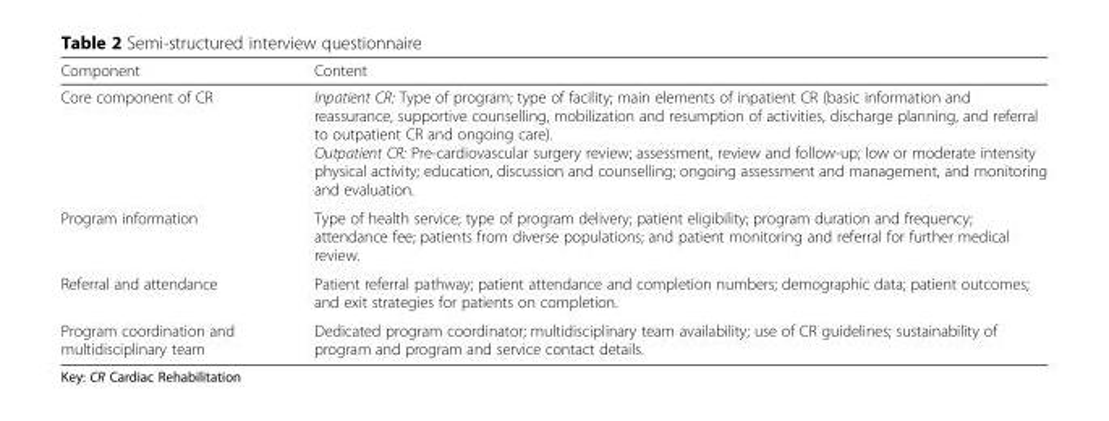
<table><thead><tr><td>Component</td><td>Content</td></tr></thead><tbody><tr><td>Core component of CR</td><td>Inpatient CR: Type of program; type of facility; main elements of inpatient CR (basic information and reassurance, supportive counselling, mobilization and resumption of activities, discharge planning, and referral to outpatient CR and ongoing care). Outpatient CR: Pre-cardiovascular surgery review; assessment, review and follow-up; low or moderate intensity physical activity; education, discussion and counselling; ongoing assessment and management, and monitoring and evaluation.</td></tr><tr><td>Program information</td><td>Type of health service; type of program delivery; patient eligibility; program duration and frequency; attendance fee; patients from diverse populations; and patient monitoring and referral for further medical review.</td></tr><tr><td>Referral and attendance</td><td>Patient referral pathway; patient attendance and completion numbers; demographic data; patient outcomes; and exit strategies for patients on completion.</td></tr><tr><td>Program coordination and multidisciplinary team</td><td>Dedicated program coordinator; multidisciplinary team availability; use of CR guidelines; sustainability of program and program and service contact details.</td></tr></tbody></table>